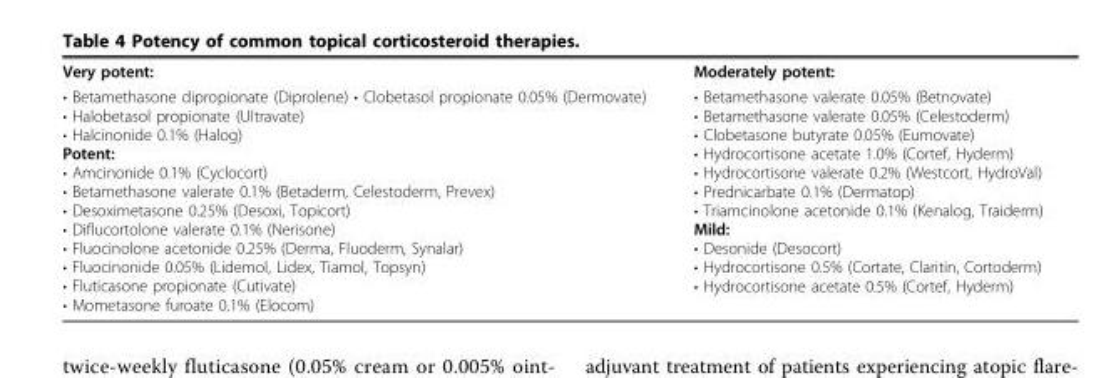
<table><tbody><tr><td>Very potent:</td><td>Moderately potent:</td></tr><tr><td>• Betamethasone dipropionate (Diprolene) • Clobetasol propionate 0.05% (Dermovate) • Halobetasol propionate (Ultravate) • Halcinonide 0.1% (Halog) Potent: • Amcinonide 0.1% (Cyclocort) • Betamethasone valerate 0.1% (Betaderm, Celestoderm, Prevex) • Desoximetasone 0.25% (Desoxi, Topicort) • Diflucortolone valerate 0.1% (Nerisone) • Fluocinolone acetonide 0.25% (Derma, Fluoderm, Synalar) • Fluocinonide 0.05% (Lidemol, Lidex, Tiamol, Topsyn) • Fluticasone propionate (Cutivate) • Mometasone furoate 0.1% (Elocom)</td><td>• Betamethasone valerate 0.05% (Betnovate) • Betamethasone valerate 0.05% (Celestoderm) • Clobetasone butyrate 0.05% (Eumovate) • Hydrocortisone acetate 1.0% (Cortef, Hyderm) • Hydrocortisone valerate 0.2% (Westcort, HydroVal) • Prednicarbate 0.1% (Dermatop) • Triamcinolone acetonide 0.1% (Kenalog, Traiderm) Mild: • Desonide (Desocort) • Hydrocortisone 0.5% (Cortate, Claritin, Cortoderm) • Hydrocortisone acetate 0.5% (Cortef, Hyderm)</td></tr></tbody></table>